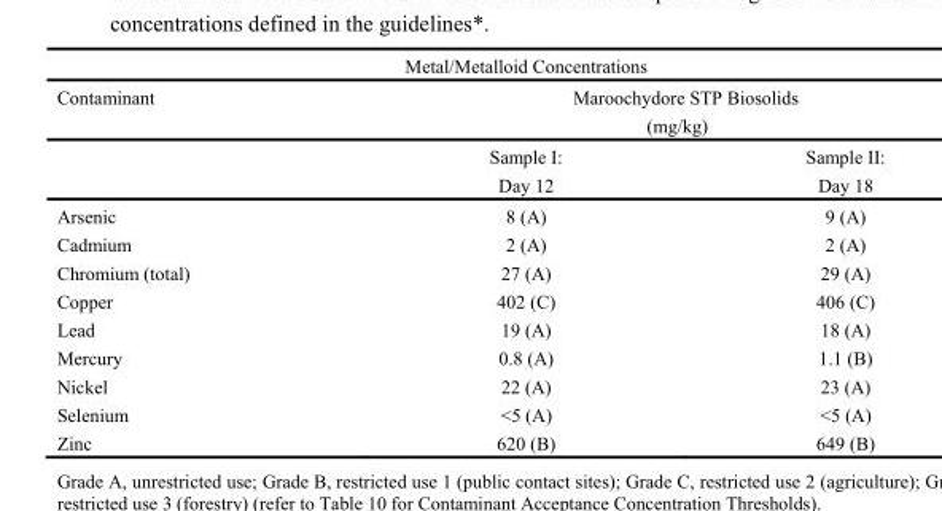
<table><thead><tr><td colspan="3">Metal/Metalloid Concentrations</td></tr><tr><td rowspan="2">Contaminant</td><td colspan="2">Maroochydore STP Biosolids (mg/kg)</td></tr><tr><td>Sample I: Day 12</td><td>Sample II: Day 18</td></tr></thead><tbody><tr><td>Arsenic</td><td>8 (A)</td><td>9 (A)</td></tr><tr><td>Cadmium</td><td>2 (A)</td><td>2 (A)</td></tr><tr><td>Chromium (total)</td><td>27 (A)</td><td>29 (A)</td></tr><tr><td>Copper</td><td>402 (C)</td><td>406 (C)</td></tr><tr><td>Lead</td><td>19 (A)</td><td>18 (A)</td></tr><tr><td>Mercury</td><td>0.8 (A)</td><td>1.1 (B)</td></tr><tr><td>Nickel</td><td>22 (A)</td><td>23 (A)</td></tr><tr><td>Selenium</td><td>&lt;5 (A)</td><td>&lt;5 (A)</td></tr><tr><td>Zinc</td><td>620 (B)</td><td>649 (B)</td></tr></tbody></table>